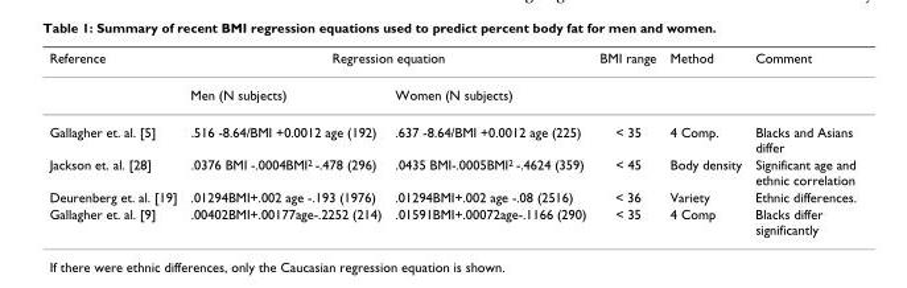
<table><thead><tr><td rowspan="2">Reference</td><td colspan="2">Regression equation</td><td rowspan="2">BMI range</td><td rowspan="2">Method</td><td rowspan="2">Comment</td></tr><tr><td>Men (N subjects)</td><td>Women (N subjects)</td></tr></thead><tbody><tr><td>Gallagher et. al. [5]</td><td>.516 -8.64/BMI +0.0012 age (192)</td><td>.637 -8.64/BMI +0.0012 age (225)</td><td>&lt; 35</td><td>4 Comp.</td><td>Blacks and Asians differ</td></tr><tr><td>Jackson et. al. [28]</td><td>.0376 BMI -.0004BMI<sup>2</sup> -.478 (296)</td><td>.0435 BMI-.0005BMI<sup>2</sup> -.4624 (359)</td><td>&lt; 45</td><td>Body density</td><td>Significant age and ethnic correlation</td></tr><tr><td>Deurenberg et. al. [19]</td><td>.01294BMI+.002 age -.193 (1976)</td><td>.01294BMI+.002 age -.08 (2516)</td><td>&lt; 36</td><td>Variety</td><td>Ethnic differences.</td></tr><tr><td>Gallagher et. al. [9]</td><td>.00402BMI+.00177age-.2252 (214)</td><td>.01591BMI+.00072age-.1166 (290)</td><td>&lt; 35</td><td>4 Comp</td><td>Blacks differ significantly</td></tr></tbody></table>